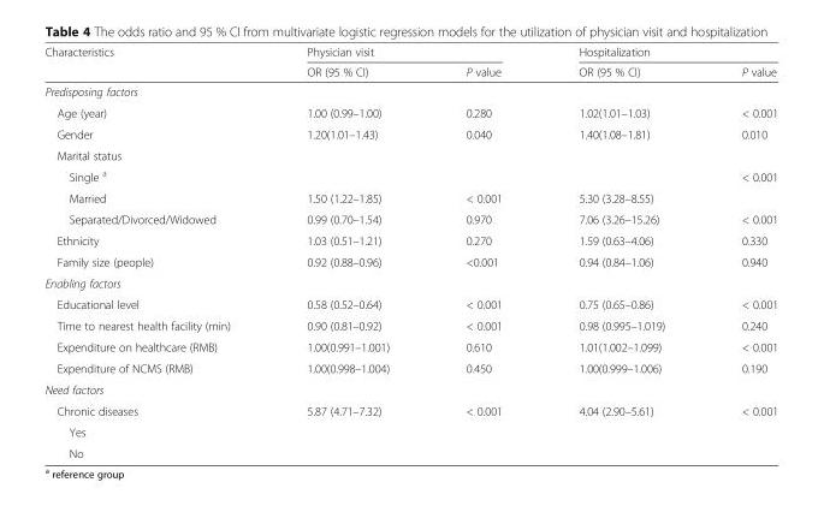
<table><thead><tr><td rowspan="2">Characteristics</td><td colspan="2">Physician visit</td><td colspan="2">Hospitalization</td></tr><tr><td>OR (95 % CI)</td><td>P value</td><td>OR (95 % CI)</td><td>P value</td></tr></thead><tbody><tr><td colspan="5">Predisposing factors</td></tr><tr><td>Age (year)</td><td>1.00 (0.99–1.00)</td><td>0.280</td><td>1.02(1.01–1.03)</td><td>&lt; 0.001</td></tr><tr><td>Gender</td><td>1.20(1.01–1.43)</td><td>0.040</td><td>1.40(1.08–1.81)</td><td>0.010</td></tr><tr><td colspan="5">Marital status</td></tr><tr><td colspan="4">Single <sup>a</sup></td><td rowspan="2">&lt; 0.001</td></tr><tr><td>Married</td><td>1.50 (1.22–1.85)</td><td>&lt; 0.001</td><td>5.30 (3.28–8.55)</td></tr><tr><td>Separated/Divorced/Widowed</td><td>0.99 (0.70–1.54)</td><td>0.970</td><td>7.06 (3.26–15.26)</td><td>&lt; 0.001</td></tr><tr><td>Ethnicity</td><td>1.03 (0.51–1.21)</td><td>0.270</td><td>1.59 (0.63–4.06)</td><td>0.330</td></tr><tr><td>Family size (people)</td><td>0.92 (0.88–0.96)</td><td>&lt;0.001</td><td>0.94 (0.84–1.06)</td><td>0.940</td></tr><tr><td colspan="5">Enabling factors</td></tr><tr><td>Educational level</td><td>0.58 (0.52–0.64)</td><td>&lt; 0.001</td><td>0.75 (0.65–0.86)</td><td>&lt; 0.001</td></tr><tr><td>Time to nearest health facility (min)</td><td>0.90 (0.81–0.92)</td><td>&lt; 0.001</td><td>0.98 (0.995–1.019)</td><td>0.240</td></tr><tr><td>Expenditure on healthcare (RMB)</td><td>1.00(0.991–1.001)</td><td>0.610</td><td>1.01(1.002–1.099)</td><td>&lt; 0.001</td></tr><tr><td>Expenditure of NCMS (RMB)</td><td>1.00(0.998–1.004)</td><td>0.450</td><td>1.00(0.999–1.006)</td><td>0.190</td></tr><tr><td colspan="5">Need factors</td></tr><tr><td>Chronic diseases</td><td>5.87 (4.71–7.32)</td><td>&lt; 0.001</td><td>4.04 (2.90–5.61)</td><td>&lt; 0.001</td></tr><tr><td colspan="5">Yes</td></tr><tr><td colspan="5">No</td></tr></tbody></table>